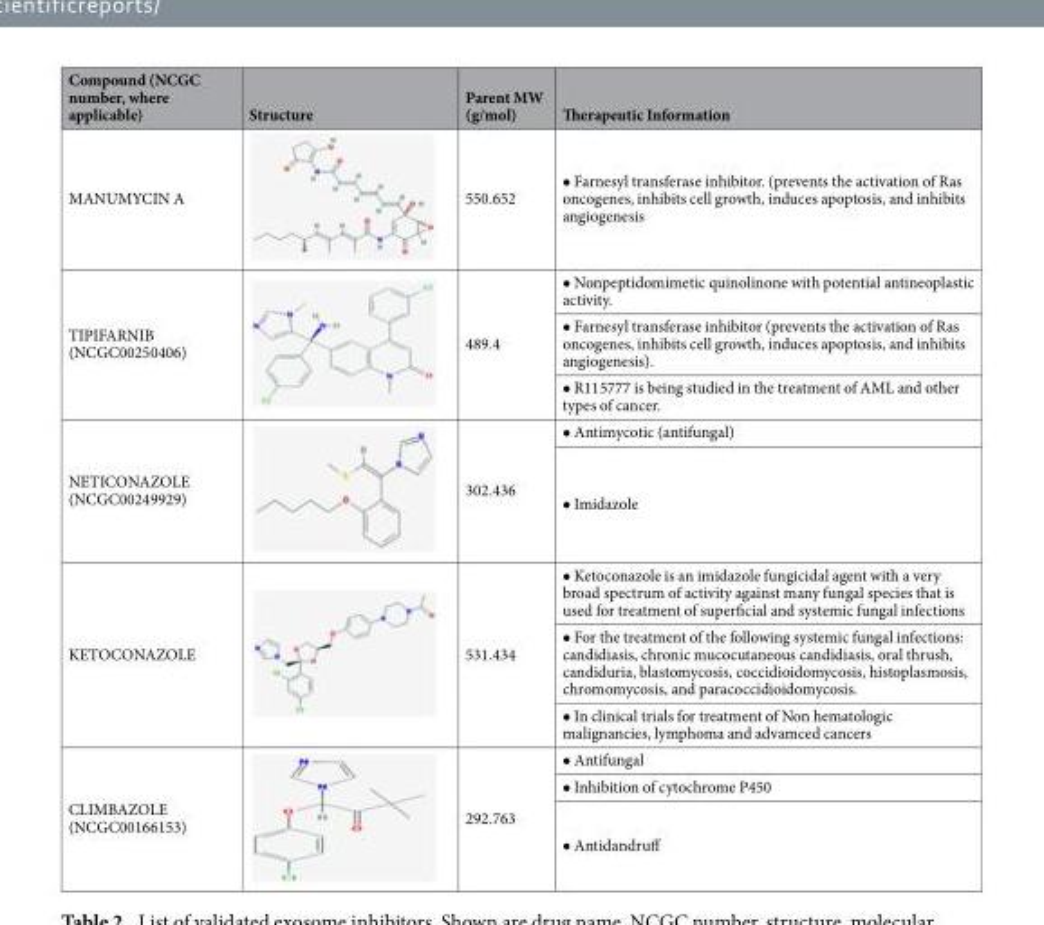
<table><thead><tr><td>Compound (NCGC number, where applicable)</td><td>Structure</td><td>Parent MW (g/mol)</td><td>Therapeutic Information</td></tr></thead><tbody><tr><td>MANUMYCIN A</td><td></td><td>550.652</td><td>• Farnesyl transferase inhibitor. (prevents the activation of Ras oncogenes, inhibits cell growth, induces apoptosis, and inhibits angiogenesis</td></tr><tr><td rowspan="3">TIPIFARNIB (NCGC00250406)</td><td rowspan="3"></td><td rowspan="3">489.4</td><td>• Nonpeptidomimetic quinolinone with potential antineoplastic activity.</td></tr><tr><td>• Farnesyl transferase inhibitor (prevents the activation of Ras oncogenes, inhibits cell growth, induces apoptosis, and inhibits angiogenesis).</td></tr><tr><td>• R115777 is being studied in the treatment of AML and other types of cancer.</td></tr><tr><td rowspan="2">NETICONAZOLE (NCGC00249929)</td><td rowspan="2"></td><td rowspan="2">302.436</td><td>• Antimycotic (antifungal)</td></tr><tr><td>• Imidazole</td></tr><tr><td rowspan="3">KETOCONAZOLE</td><td rowspan="3"></td><td rowspan="3">531.434</td><td>• Ketoconazole is an imidazole fungicidal agent with a very broad spectrum of activity against many fungal species that is used for treatment of superficial and systemic fungal infections</td></tr><tr><td>• For the treatment of the following systemic fungal infections: candidiasis, chronic mucocutaneous candidiasis, oral thrush, candiduria, blastomycosis, coccidioidomycosis, histoplasmosis, chromomycosis, and paracoccidioidomycosis.</td></tr><tr><td>• In clinical trials for treatment of Non hematologic malignancies, lymphoma and advamced cancers</td></tr><tr><td rowspan="3">CLIMBAZOLE (NCGC00166153)</td><td rowspan="3"></td><td rowspan="3">292.763</td><td>• Antifungal</td></tr><tr><td>• Inhibition of cytochrome P450</td></tr><tr><td>• Antidandruff</td></tr></tbody></table>